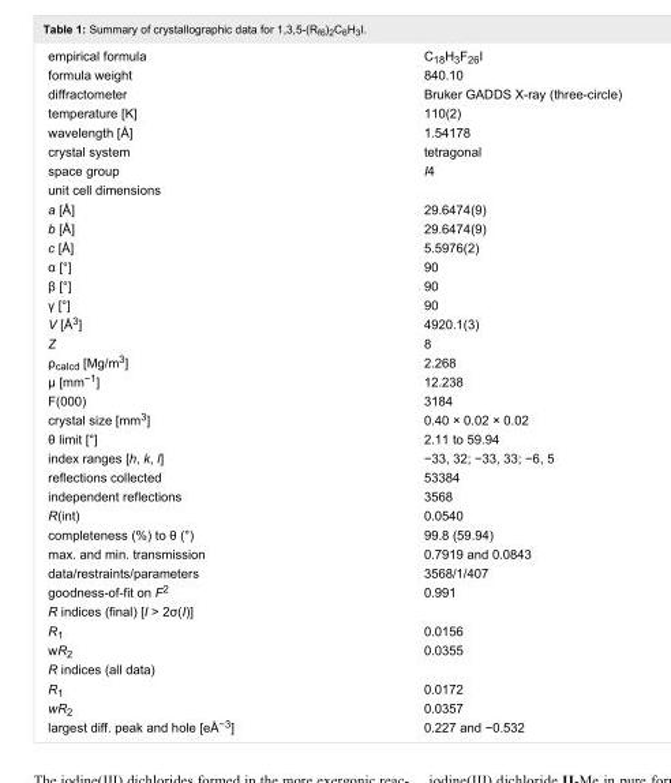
<table><tbody><tr><td>empirical formula</td><td>C<sub>18</sub>H<sub>3</sub>F<sub>26</sub>I</td></tr><tr><td>formula weight</td><td>840.10</td></tr><tr><td>diffractometer</td><td>Bruker GADDS X-ray (three-circle)</td></tr><tr><td>temperature [K]</td><td>110(2)</td></tr><tr><td>wavelength [Å]</td><td>1.54178</td></tr><tr><td>crystal system</td><td>tetragonal</td></tr><tr><td>space group</td><td>I4</td></tr><tr><td colspan="2">unit cell dimensions</td></tr><tr><td>a [Å]</td><td>29.6474(9)</td></tr><tr><td>b [Å]</td><td>29.6474(9)</td></tr><tr><td>c [Å]</td><td>5.5976(2)</td></tr><tr><td>α [°]</td><td>90</td></tr><tr><td>β [°]</td><td>90</td></tr><tr><td>γ [°]</td><td>90</td></tr><tr><td>V [Å<sup>3</sup>]</td><td>4920.1(3)</td></tr><tr><td>Z</td><td>8</td></tr><tr><td>ρ<sub>calcd</sub> [Mg/m<sup>3</sup>]</td><td>2.268</td></tr><tr><td>µ [mm<sup>−1</sup>]</td><td>12.238</td></tr><tr><td>F(000)</td><td>3184</td></tr><tr><td>crystal size [mm<sup>3</sup>]</td><td>0.40 × 0.02 × 0.02</td></tr><tr><td>θ limit [°]</td><td>2.11 to 59.94</td></tr><tr><td>index ranges [h, k, l]</td><td>−33, 32; −33, 33; −6, 5</td></tr><tr><td>reflections collected</td><td>53384</td></tr><tr><td>independent reflections</td><td>3568</td></tr><tr><td>R(int)</td><td>0.0540</td></tr><tr><td>completeness (%) to θ (°)</td><td>99.8 (59.94)</td></tr><tr><td>max. and min. transmission</td><td>0.7919 and 0.0843</td></tr><tr><td>data/restraints/parameters</td><td>3568/1/407</td></tr><tr><td>goodness-of-fit on F<sup>2</sup></td><td>0.991</td></tr><tr><td colspan="2">R indices (final) [I &gt; 2σ(I)]</td></tr><tr><td>R<sub>1</sub></td><td>0.0156</td></tr><tr><td>wR<sub>2</sub></td><td>0.0355</td></tr><tr><td colspan="2">R indices (all data)</td></tr><tr><td>R<sub>1</sub></td><td>0.0172</td></tr><tr><td>wR<sub>2</sub></td><td>0.0357</td></tr><tr><td>largest diff. peak and hole [eÅ<sup>−3</sup>]</td><td>0.227 and −0.532</td></tr></tbody></table>